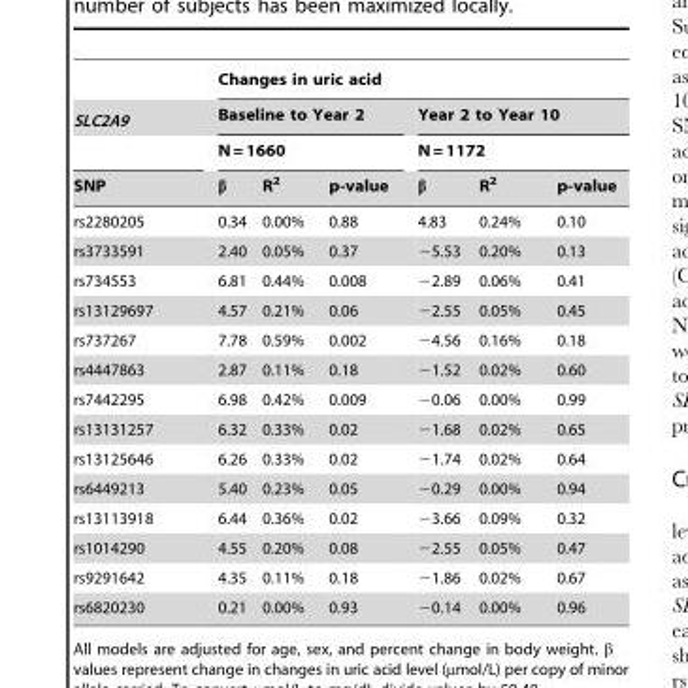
<table><thead><tr><td rowspan="4">SLC2A9 SNP</td><td colspan="6">Changes in uric acid</td></tr><tr><td rowspan="2" colspan="3">Baseline to Year 2 N = 1660</td><td rowspan="2" colspan="3">Year 2 to Year 10 N = 1172</td></tr><tr></tr><tr><td>β</td><td>R<sup>2</sup></td><td>p-value</td><td>β</td><td>R<sup>2</sup></td><td>p-value</td></tr></thead><tbody><tr><td>rs2280205</td><td>0.34</td><td>0.00%</td><td>0.88</td><td>4.83</td><td>0.24%</td><td>0.10</td></tr><tr><td>rs3733591</td><td>2.40</td><td>0.05%</td><td>0.37</td><td>−5.53</td><td>0.20%</td><td>0.13</td></tr><tr><td>rs734553</td><td>6.81</td><td>0.44%</td><td>0.008</td><td>−2.89</td><td>0.06%</td><td>0.41</td></tr><tr><td>rs13129697</td><td>4.57</td><td>0.21%</td><td>0.06</td><td>−2.55</td><td>0.05%</td><td>0.45</td></tr><tr><td>rs737267</td><td>7.78</td><td>0.59%</td><td>0.002</td><td>−4.56</td><td>0.16%</td><td>0.18</td></tr><tr><td>rs4447863</td><td>2.87</td><td>0.11%</td><td>0.18</td><td>−1.52</td><td>0.02%</td><td>0.60</td></tr><tr><td>rs7442295</td><td>6.98</td><td>0.42%</td><td>0.009</td><td>−0.06</td><td>0.00%</td><td>0.99</td></tr><tr><td>rs13131257</td><td>6.32</td><td>0.33%</td><td>0.02</td><td>−1.68</td><td>0.02%</td><td>0.65</td></tr><tr><td>rs13125646</td><td>6.26</td><td>0.33%</td><td>0.02</td><td>−1.74</td><td>0.02%</td><td>0.64</td></tr><tr><td>rs6449213</td><td>5.40</td><td>0.23%</td><td>0.05</td><td>−0.29</td><td>0.00%</td><td>0.94</td></tr><tr><td>rs13113918</td><td>6.44</td><td>0.36%</td><td>0.02</td><td>−3.66</td><td>0.09%</td><td>0.32</td></tr><tr><td>rs1014290</td><td>4.55</td><td>0.20%</td><td>0.08</td><td>−2.55</td><td>0.05%</td><td>0.47</td></tr><tr><td>rs9291642</td><td>4.35</td><td>0.11%</td><td>0.18</td><td>−1.86</td><td>0.02%</td><td>0.67</td></tr><tr><td>rs6820230</td><td>0.21</td><td>0.00%</td><td>0.93</td><td>−0.14</td><td>0.00%</td><td>0.96</td></tr></tbody></table>